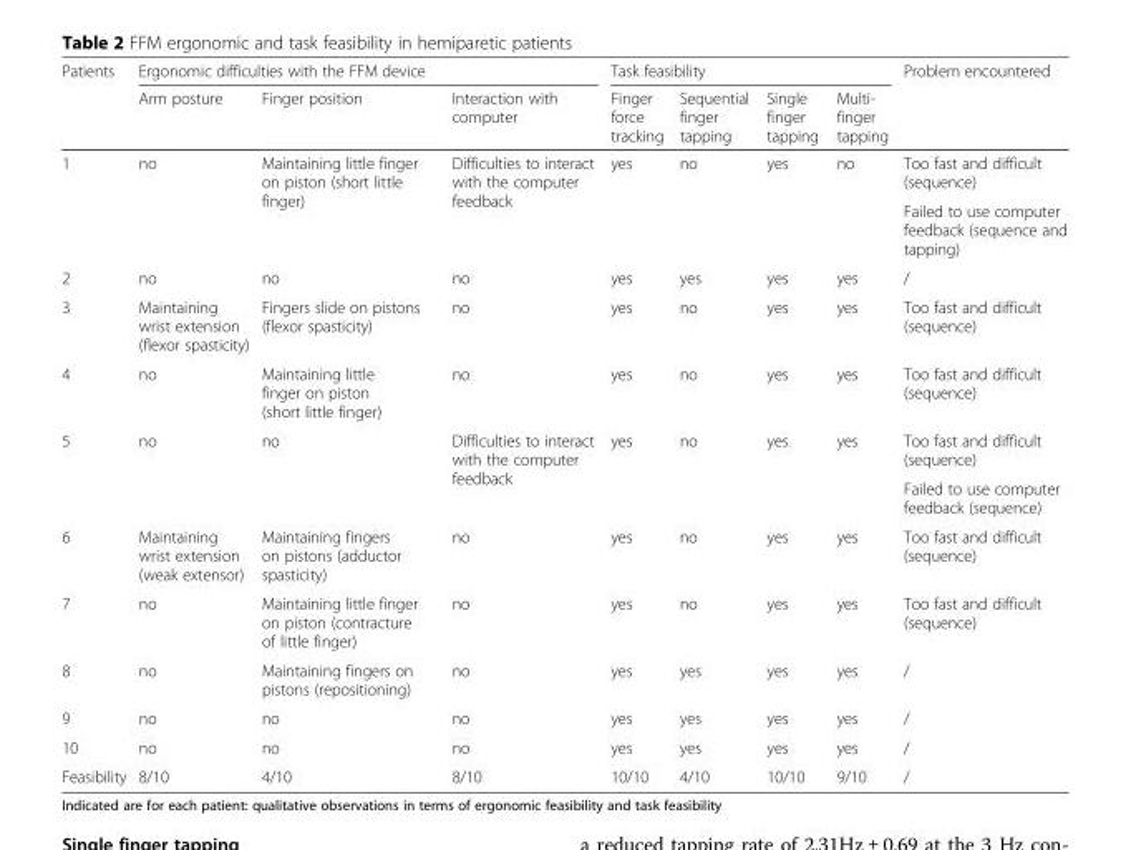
<table><thead><tr><td rowspan="2">Patients</td><td colspan="3">Ergonomic difficulties with the FFM device</td><td colspan="4">Task feasibility</td><td rowspan="2">Problem encountered</td></tr><tr><td>Arm posture</td><td>Finger position</td><td>Interaction with computer</td><td>Finger force tracking</td><td>Sequential finger tapping</td><td>Single finger tapping</td><td>Multi- finger tapping</td></tr></thead><tbody><tr><td rowspan="2">1</td><td rowspan="2">no</td><td rowspan="2">Maintaining little finger on piston (short little finger)</td><td rowspan="2">Difficulties to interact with the computer feedback</td><td rowspan="2">yes</td><td rowspan="2">no</td><td rowspan="2">yes</td><td rowspan="2">no</td><td>Too fast and difficult (sequence)</td></tr><tr><td>Failed to use computer feedback (sequence and tapping)</td></tr><tr><td>2</td><td>no</td><td>no</td><td>no</td><td>yes</td><td>yes</td><td>yes</td><td>yes</td><td>/</td></tr><tr><td>3</td><td>Maintaining wrist extension (flexor spasticity)</td><td>Fingers slide on pistons (flexor spasticity)</td><td>no</td><td>yes</td><td>no</td><td>yes</td><td>yes</td><td>Too fast and difficult (sequence)</td></tr><tr><td>4</td><td>no</td><td>Maintaining little finger on piston (short little finger)</td><td>no</td><td>yes</td><td>no</td><td>yes</td><td>yes</td><td>Too fast and difficult (sequence)</td></tr><tr><td rowspan="2">5</td><td rowspan="2">no</td><td rowspan="2">no</td><td rowspan="2">Difficulties to interact with the computer feedback</td><td rowspan="2">yes</td><td rowspan="2">no</td><td rowspan="2">yes</td><td rowspan="2">yes</td><td>Too fast and difficult (sequence)</td></tr><tr><td>Failed to use computer feedback (sequence)</td></tr><tr><td>6</td><td>Maintaining wrist extension (weak extensor)</td><td>Maintaining fingers on pistons (adductor spasticity)</td><td>no</td><td>yes</td><td>no</td><td>yes</td><td>yes</td><td>Too fast and difficult (sequence)</td></tr><tr><td>7</td><td>no</td><td>Maintaining little finger on piston (contracture of little finger)</td><td>no</td><td>yes</td><td>no</td><td>yes</td><td>yes</td><td>Too fast and difficult (sequence)</td></tr><tr><td>8</td><td>no</td><td>Maintaining fingers on pistons (repositioning)</td><td>no</td><td>yes</td><td>yes</td><td>yes</td><td>yes</td><td>/</td></tr><tr><td>9</td><td>no</td><td>no</td><td>no</td><td>yes</td><td>yes</td><td>yes</td><td>yes</td><td>/</td></tr><tr><td>10</td><td>no</td><td>no</td><td>no</td><td>yes</td><td>yes</td><td>yes</td><td>yes</td><td>/</td></tr><tr><td>Feasibility</td><td>8/10</td><td>4/10</td><td>8/10</td><td>10/10</td><td>4/10</td><td>10/10</td><td>9/10</td><td>/</td></tr></tbody></table>